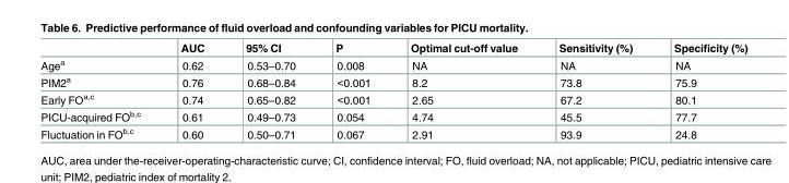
<table><thead><tr><td></td><td>AUC</td><td>95% CI</td><td>P</td><td>Optimal cut-off value</td><td>Sensitivity (%)</td><td>Specificity (%)</td></tr></thead><tbody><tr><td>Age<sup>a</sup></td><td>0.62</td><td>0.53–0.70</td><td>0.008</td><td>NA</td><td>NA</td><td>NA</td></tr><tr><td>PIM2<sup>a</sup></td><td>0.76</td><td>0.68–0.84</td><td>&lt;0.001</td><td>8.2</td><td>73.8</td><td>75.9</td></tr><tr><td>Early FO<sup>a,c</sup></td><td>0.74</td><td>0.65–0.82</td><td>&lt;0.001</td><td>2.65</td><td>67.2</td><td>80.1</td></tr><tr><td>PICU-acquired FO<sup>b,c</sup></td><td>0.61</td><td>0.49–0.73</td><td>0.054</td><td>4.74</td><td>45.5</td><td>77.7</td></tr><tr><td>Fluctuation in FO<sup>b,c</sup></td><td>0.60</td><td>0.50–0.71</td><td>0.067</td><td>2.91</td><td>93.9</td><td>24.8</td></tr></tbody></table>